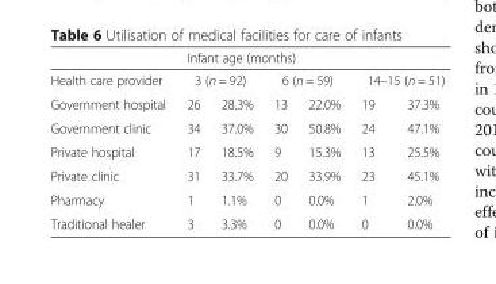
<table><thead><tr><td rowspan="3">Health care provider Government hospital</td><td colspan="6">Infant age (months)</td></tr><tr><td colspan="2">3 (n = 92)</td><td colspan="2">6 (n = 59)</td><td colspan="2">14–15 (n = 51)</td></tr><tr><td>26</td><td>28.3%</td><td>13</td><td>22.0%</td><td>19</td><td>37.3%</td></tr></thead><tbody><tr><td>Government clinic</td><td>34</td><td>37.0%</td><td>30</td><td>50.8%</td><td>24</td><td>47.1%</td></tr><tr><td>Private hospital</td><td>17</td><td>18.5%</td><td>9</td><td>15.3%</td><td>13</td><td>25.5%</td></tr><tr><td>Private clinic</td><td>31</td><td>33.7%</td><td>20</td><td>33.9%</td><td>23</td><td>45.1%</td></tr><tr><td>Pharmacy</td><td>1</td><td>1.1%</td><td>0</td><td>0.0%</td><td>1</td><td>2.0%</td></tr><tr><td>Traditional healer</td><td>3</td><td>3.3%</td><td>0</td><td>0.0%</td><td>0</td><td>0.0%</td></tr></tbody></table>